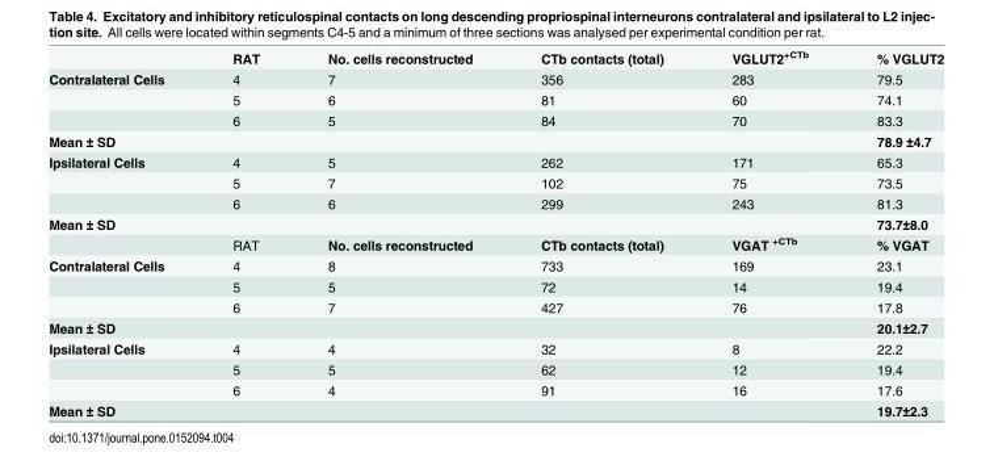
<table><thead><tr><td></td><td>RAT</td><td>No. cells reconstructed</td><td>CTb contacts (total)</td><td>VGLUT2<sup>+CTb</sup></td><td>% VGLUT2</td></tr></thead><tbody><tr><td rowspan="3">Contralateral Cells</td><td>4</td><td>7</td><td>356</td><td>283</td><td>79.5</td></tr><tr><td>5</td><td>6</td><td>81</td><td>60</td><td>74.1</td></tr><tr><td>6</td><td>5</td><td>84</td><td>70</td><td>83.3</td></tr><tr><td>Mean ± SD</td><td></td><td></td><td></td><td></td><td>78.9 ±4.7</td></tr><tr><td rowspan="3">Ipsilateral Cells</td><td>4</td><td>5</td><td>262</td><td>171</td><td>65.3</td></tr><tr><td>5</td><td>7</td><td>102</td><td>75</td><td>73.5</td></tr><tr><td>6</td><td>6</td><td>299</td><td>243</td><td>81.3</td></tr><tr><td rowspan="2">Mean ± SD</td><td></td><td></td><td></td><td></td><td>73.7±8.0</td></tr><tr><td>RAT</td><td>No. cells reconstructed</td><td>CTb contacts (total)</td><td>VGAT <sup>+CTb</sup></td><td>% VGAT</td></tr><tr><td rowspan="3">Contralateral Cells</td><td>4</td><td>8</td><td>733</td><td>169</td><td>23.1</td></tr><tr><td>5</td><td>5</td><td>72</td><td>14</td><td>19.4</td></tr><tr><td>6</td><td>7</td><td>427</td><td>76</td><td>17.8</td></tr><tr><td>Mean ± SD</td><td></td><td></td><td></td><td></td><td>20.1±2.7</td></tr><tr><td rowspan="3">Ipsilateral Cells</td><td>4</td><td>4</td><td>32</td><td>8</td><td>22.2</td></tr><tr><td>5</td><td>5</td><td>62</td><td>12</td><td>19.4</td></tr><tr><td>6</td><td>4</td><td>91</td><td>16</td><td>17.6</td></tr><tr><td>Mean ± SD</td><td></td><td></td><td></td><td></td><td>19.7±2.3</td></tr></tbody></table>